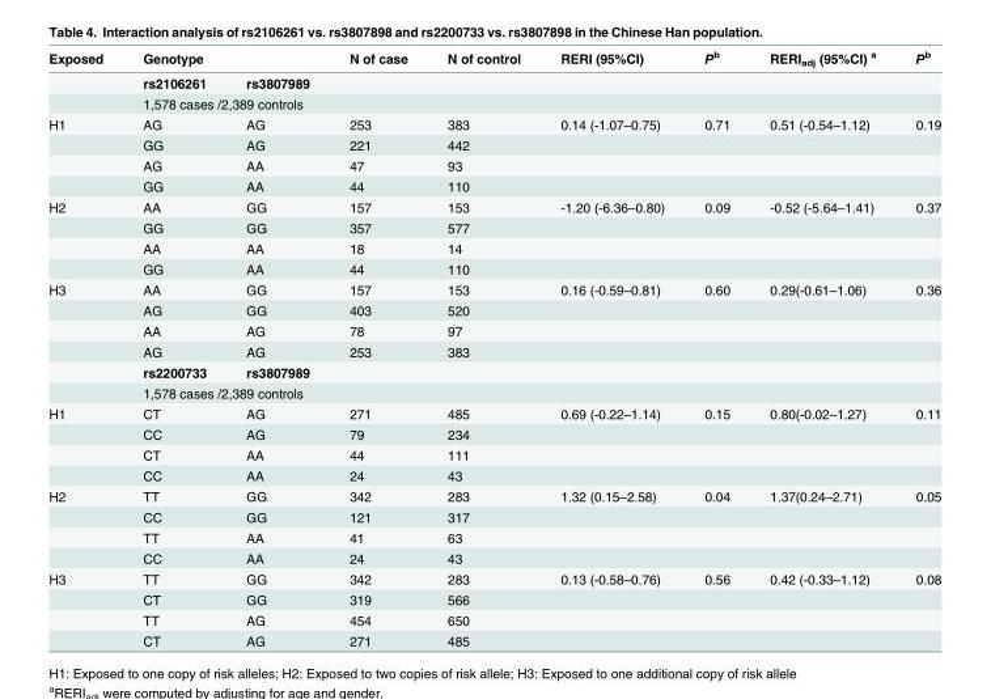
<table><thead><tr><td rowspan="2">Exposed</td><td colspan="2">Genotype</td><td rowspan="2">N of case</td><td rowspan="2">N of control</td><td rowspan="2">RERI (95%CI)</td><td rowspan="2">P<sup>b</sup></td><td rowspan="2">RERI<sub>adj</sub> (95%CI) <sup>a</sup></td><td rowspan="2">P<sup>b</sup></td></tr><tr><td>rs2106261</td><td>rs3807989</td></tr></thead><tbody><tr><td></td><td colspan="2">1,578 cases /2,389 controls</td><td></td><td></td><td></td><td></td><td></td><td></td></tr><tr><td rowspan="4">H1</td><td>AG</td><td>AG</td><td>253</td><td>383</td><td>0.14 (-1.07–0.75)</td><td>0.71</td><td>0.51 (-0.54–1.12)</td><td>0.19</td></tr><tr><td>GG</td><td>AG</td><td>221</td><td>442</td><td></td><td></td><td></td><td></td></tr><tr><td>AG</td><td>AA</td><td>47</td><td>93</td><td></td><td></td><td></td><td></td></tr><tr><td>GG</td><td>AA</td><td>44</td><td>110</td><td></td><td></td><td></td><td></td></tr><tr><td rowspan="4">H2</td><td>AA</td><td>GG</td><td>157</td><td>153</td><td>-1.20 (-6.36–0.80)</td><td>0.09</td><td>-0.52 (-5.64–1.41)</td><td>0.37</td></tr><tr><td>GG</td><td>GG</td><td>357</td><td>577</td><td></td><td></td><td></td><td></td></tr><tr><td>AA</td><td>AA</td><td>18</td><td>14</td><td></td><td></td><td></td><td></td></tr><tr><td>GG</td><td>AA</td><td>44</td><td>110</td><td></td><td></td><td></td><td></td></tr><tr><td rowspan="6">H3</td><td>AA</td><td>GG</td><td>157</td><td>153</td><td>0.16 (-0.59–0.81)</td><td>0.60</td><td>0.29(-0.61–1.06)</td><td>0.36</td></tr><tr><td>AG</td><td>GG</td><td>403</td><td>520</td><td></td><td></td><td></td><td></td></tr><tr><td>AA</td><td>AG</td><td>78</td><td>97</td><td></td><td></td><td></td><td></td></tr><tr><td>AG</td><td>AG</td><td>253</td><td>383</td><td></td><td></td><td></td><td></td></tr><tr><td>rs2200733</td><td>rs3807989</td><td></td><td></td><td></td><td></td><td></td><td></td></tr><tr><td colspan="2">1,578 cases /2,389 controls</td><td></td><td></td><td></td><td></td><td></td><td></td></tr><tr><td rowspan="4">H1</td><td>CT</td><td>AG</td><td>271</td><td>485</td><td>0.69 (-0.22–1.14)</td><td>0.15</td><td>0.80(-0.02–1.27)</td><td>0.11</td></tr><tr><td>CC</td><td>AG</td><td>79</td><td>234</td><td></td><td></td><td></td><td></td></tr><tr><td>CT</td><td>AA</td><td>44</td><td>111</td><td></td><td></td><td></td><td></td></tr><tr><td>CC</td><td>AA</td><td>24</td><td>43</td><td></td><td></td><td></td><td></td></tr><tr><td rowspan="4">H2</td><td>TT</td><td>GG</td><td>342</td><td>283</td><td>1.32 (0.15–2.58)</td><td>0.04</td><td>1.37(0.24–2.71)</td><td>0.05</td></tr><tr><td>CC</td><td>GG</td><td>121</td><td>317</td><td></td><td></td><td></td><td></td></tr><tr><td>TT</td><td>AA</td><td>41</td><td>63</td><td></td><td></td><td></td><td></td></tr><tr><td>CC</td><td>AA</td><td>24</td><td>43</td><td></td><td></td><td></td><td></td></tr><tr><td rowspan="4">H3</td><td>TT</td><td>GG</td><td>342</td><td>283</td><td>0.13 (-0.58–0.76)</td><td>0.56</td><td>0.42 (-0.33–1.12)</td><td>0.08</td></tr><tr><td>CT</td><td>GG</td><td>319</td><td>566</td><td></td><td></td><td></td><td></td></tr><tr><td>TT</td><td>AG</td><td>454</td><td>650</td><td></td><td></td><td></td><td></td></tr><tr><td>CT</td><td>AG</td><td>271</td><td>485</td><td></td><td></td><td></td><td></td></tr></tbody></table>